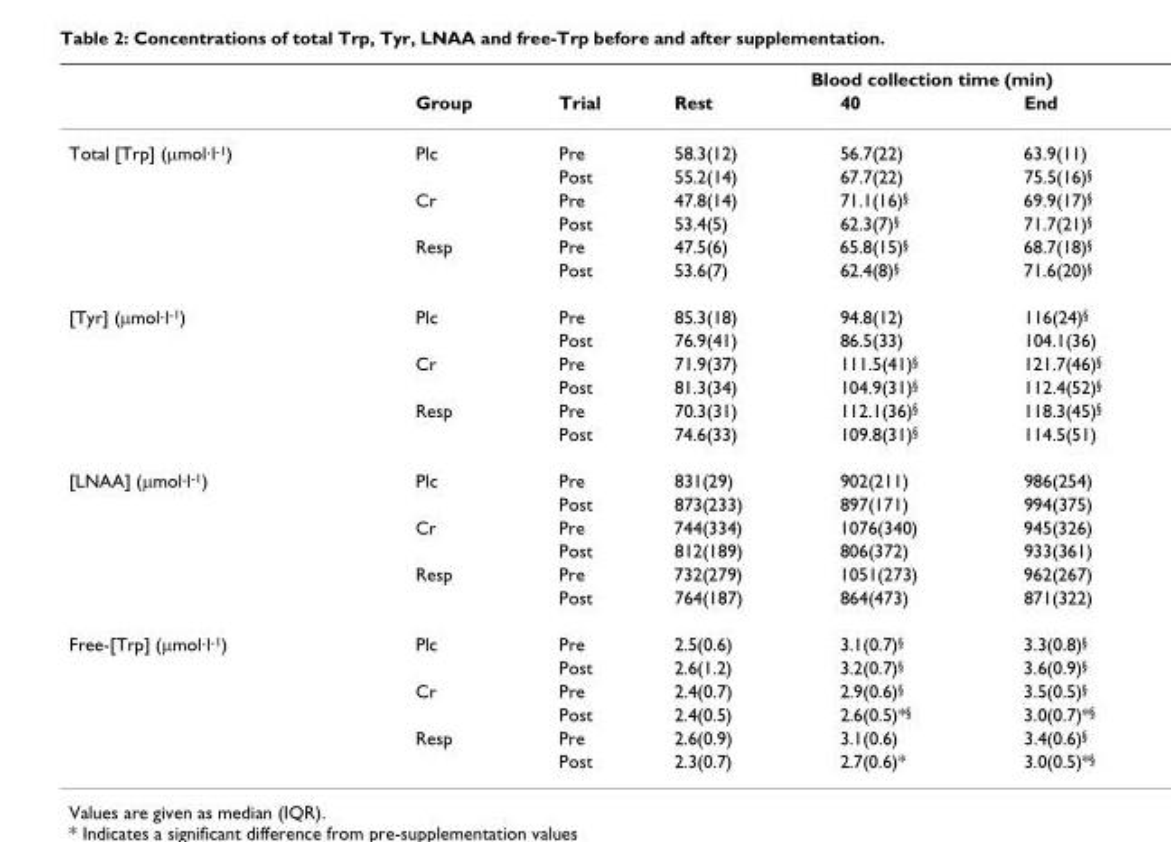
<table><thead><tr><td rowspan="2"></td><td rowspan="2">Group</td><td rowspan="2">Trial</td><td colspan="3">Blood collection time (min)</td></tr><tr><td>Rest</td><td>40</td><td>End</td></tr></thead><tbody><tr><td rowspan="6">Total [Trp] (μmol·l<sup>-1</sup>)</td><td>Plc</td><td>Pre</td><td>58.3(12)</td><td>56.7(22)</td><td>63.9(11)</td></tr><tr><td></td><td>Post</td><td>55.2(14)</td><td>67.7(22)</td><td>75.5(16)<sup>§</sup></td></tr><tr><td>Cr</td><td>Pre</td><td>47.8(14)</td><td>71.1(16)<sup>§</sup></td><td>69.9(17)<sup>§</sup></td></tr><tr><td></td><td>Post</td><td>53.4(5)</td><td>62.3(7)<sup>§</sup></td><td>71.7(21)<sup>§</sup></td></tr><tr><td>Resp</td><td>Pre</td><td>47.5(6)</td><td>65.8(15)<sup>§</sup></td><td>68.7(18)<sup>§</sup></td></tr><tr><td></td><td>Post</td><td>53.6(7)</td><td>62.4(8)<sup>§</sup></td><td>71.6(20)<sup>§</sup></td></tr><tr><td rowspan="6">[Tyr] (μmol·l<sup>-1</sup>)</td><td>Plc</td><td>Pre</td><td>85.3(18)</td><td>94.8(12)</td><td>116(24)<sup>§</sup></td></tr><tr><td></td><td>Post</td><td>76.9(41)</td><td>86.5(33)</td><td>104.1(36)</td></tr><tr><td>Cr</td><td>Pre</td><td>71.9(37)</td><td>111.5(41)<sup>§</sup></td><td>121.7(46)<sup>§</sup></td></tr><tr><td></td><td>Post</td><td>81.3(34)</td><td>104.9(31)<sup>§</sup></td><td>112.4(52)<sup>§</sup></td></tr><tr><td>Resp</td><td>Pre</td><td>70.3(31)</td><td>112.1(36)<sup>§</sup></td><td>118.3(45)<sup>§</sup></td></tr><tr><td></td><td>Post</td><td>74.6(33)</td><td>109.8(31)<sup>§</sup></td><td>114.5(51)</td></tr><tr><td rowspan="6">[LNAA] (μmol·l<sup>-1</sup>)</td><td>Plc</td><td>Pre</td><td>831(29)</td><td>902(211)</td><td>986(254)</td></tr><tr><td></td><td>Post</td><td>873(233)</td><td>897(171)</td><td>994(375)</td></tr><tr><td>Cr</td><td>Pre</td><td>744(334)</td><td>1076(340)</td><td>945(326)</td></tr><tr><td></td><td>Post</td><td>812(189)</td><td>806(372)</td><td>933(361)</td></tr><tr><td>Resp</td><td>Pre</td><td>732(279)</td><td>1051(273)</td><td>962(267)</td></tr><tr><td></td><td>Post</td><td>764(187)</td><td>864(473)</td><td>871(322)</td></tr><tr><td rowspan="6">Free-[Trp] (μmol·l<sup>-1</sup>)</td><td>Plc</td><td>Pre</td><td>2.5(0.6)</td><td>3.1(0.7)<sup>§</sup></td><td>3.3(0.8)<sup>§</sup></td></tr><tr><td></td><td>Post</td><td>2.6(1.2)</td><td>3.2(0.7)<sup>§</sup></td><td>3.6(0.9)<sup>§</sup></td></tr><tr><td>Cr</td><td>Pre</td><td>2.4(0.7)</td><td>2.9(0.6)<sup>§</sup></td><td>3.5(0.5)<sup>§</sup></td></tr><tr><td></td><td>Post</td><td>2.4(0.5)</td><td>2.6(0.5)*<sup>§</sup></td><td>3.0(0.7)*<sup>§</sup></td></tr><tr><td>Resp</td><td>Pre</td><td>2.6(0.9)</td><td>3.1(0.6)</td><td>3.4(0.6)<sup>§</sup></td></tr><tr><td></td><td>Post</td><td>2.3(0.7)</td><td>2.7(0.6)*</td><td>3.0(0.5)*<sup>§</sup></td></tr></tbody></table>